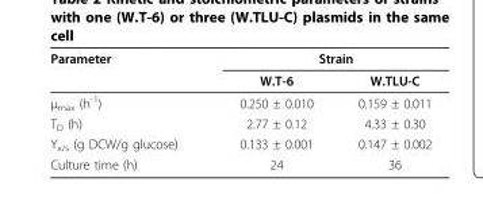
<table><thead><tr><td rowspan="2">Parameter</td><td colspan="2">Strain</td></tr><tr><td>W.T-6</td><td>W.TLU-C</td></tr></thead><tbody><tr><td>μ<sub>max</sub> (h<sup>-1</sup>)</td><td>0.250 ± 0.010</td><td>0.159 ± 0.011</td></tr><tr><td>T<sub>D</sub> (h)</td><td>2.77 ± 0.12</td><td>4.33 ± 0.30</td></tr><tr><td>Y<sub>x/s</sub> (g DCW/g glucose)</td><td>0.133 ± 0.001</td><td>0.147 ± 0.002</td></tr><tr><td>Culture time (h)</td><td>24</td><td>36</td></tr></tbody></table>